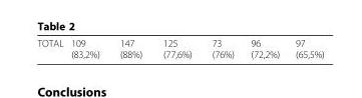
<table><tbody><tr><td>TOTAL</td><td>109 (83,2%)</td><td>147 (88%)</td><td>125 (77,6%)</td><td>73 (76%)</td><td>96 (72,2%)</td><td>97 (65,5%)</td></tr></tbody></table>